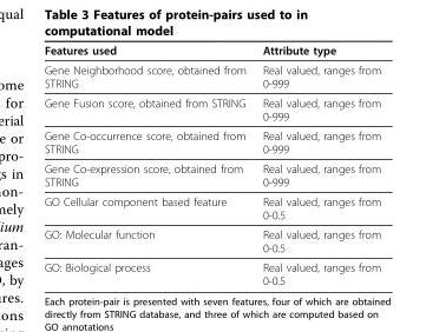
<table><thead><tr><td>Features used</td><td>Attribute type</td></tr></thead><tbody><tr><td>Gene Neighborhood score, obtained from STRING</td><td>Real valued, ranges from 0-999</td></tr><tr><td>Gene Fusion score, obtained from STRING</td><td>Real valued, ranges from 0-999</td></tr><tr><td>Gene Co-occurrence score, obtained from STRING</td><td>Real valued, ranges from 0-999</td></tr><tr><td>Gene Co-expression score, obtained from STRING</td><td>Real valued, ranges from 0-999</td></tr><tr><td>GO Cellular component based feature</td><td>Real valued, ranges from 0-0.5</td></tr><tr><td>GO: Molecular function</td><td>Real valued, ranges from 0-0.5</td></tr><tr><td>GO: Biological process</td><td>Real valued, ranges from 0-0.5</td></tr></tbody></table>